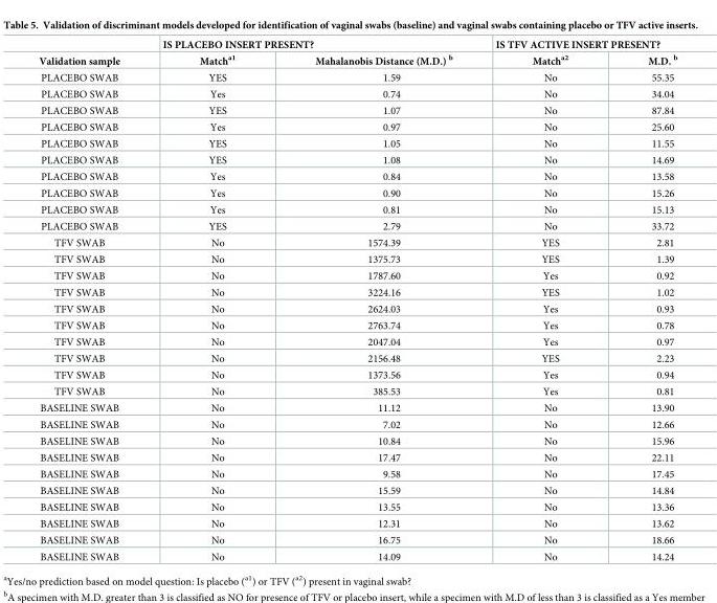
<table><thead><tr><td rowspan="2">Validation sample</td><td colspan="2">IS PLACEBO INSERT PRESENT?</td><td colspan="2">IS TFV ACTIVE INSERT PRESENT?</td></tr><tr><td>Match<sup>a1</sup></td><td>Mahalanobis Distance (M.D.) <sup>b</sup></td><td>Match<sup>a2</sup></td><td>M.D. <sup>b</sup></td></tr></thead><tbody><tr><td>PLACEBO SWAB</td><td>YES</td><td>1.59</td><td>No</td><td>55.35</td></tr><tr><td>PLACEBO SWAB</td><td>Yes</td><td>0.74</td><td>No</td><td>34.04</td></tr><tr><td>PLACEBO SWAB</td><td>YES</td><td>1.07</td><td>No</td><td>87.84</td></tr><tr><td>PLACEBO SWAB</td><td>Yes</td><td>0.97</td><td>No</td><td>25.60</td></tr><tr><td>PLACEBO SWAB</td><td>YES</td><td>1.05</td><td>No</td><td>11.55</td></tr><tr><td>PLACEBO SWAB</td><td>YES</td><td>1.08</td><td>No</td><td>14.69</td></tr><tr><td>PLACEBO SWAB</td><td>Yes</td><td>0.84</td><td>No</td><td>13.58</td></tr><tr><td>PLACEBO SWAB</td><td>Yes</td><td>0.90</td><td>No</td><td>15.26</td></tr><tr><td>PLACEBO SWAB</td><td>Yes</td><td>0.81</td><td>No</td><td>15.13</td></tr><tr><td>PLACEBO SWAB</td><td>YES</td><td>2.79</td><td>No</td><td>33.72</td></tr><tr><td>TFV SWAB</td><td>No</td><td>1574.39</td><td>YES</td><td>2.81</td></tr><tr><td>TFV SWAB</td><td>No</td><td>1375.73</td><td>YES</td><td>1.39</td></tr><tr><td>TFV SWAB</td><td>No</td><td>1787.60</td><td>Yes</td><td>0.92</td></tr><tr><td>TFV SWAB</td><td>No</td><td>3224.16</td><td>YES</td><td>1.02</td></tr><tr><td>TFV SWAB</td><td>No</td><td>2624.03</td><td>Yes</td><td>0.93</td></tr><tr><td>TFV SWAB</td><td>No</td><td>2763.74</td><td>Yes</td><td>0.78</td></tr><tr><td>TFV SWAB</td><td>No</td><td>2047.04</td><td>Yes</td><td>0.97</td></tr><tr><td>TFV SWAB</td><td>No</td><td>2156.48</td><td>YES</td><td>2.23</td></tr><tr><td>TFV SWAB</td><td>No</td><td>1373.56</td><td>Yes</td><td>0.94</td></tr><tr><td>TFV SWAB</td><td>No</td><td>385.53</td><td>Yes</td><td>0.81</td></tr><tr><td>BASELINE SWAB</td><td>No</td><td>11.12</td><td>No</td><td>13.90</td></tr><tr><td>BASELINE SWAB</td><td>No</td><td>7.02</td><td>No</td><td>12.66</td></tr><tr><td>BASELINE SWAB</td><td>No</td><td>10.84</td><td>No</td><td>15.96</td></tr><tr><td>BASELINE SWAB</td><td>No</td><td>17.47</td><td>No</td><td>22.11</td></tr><tr><td>BASELINE SWAB</td><td>No</td><td>9.58</td><td>No</td><td>17.45</td></tr><tr><td>BASELINE SWAB</td><td>No</td><td>15.59</td><td>No</td><td>14.84</td></tr><tr><td>BASELINE SWAB</td><td>No</td><td>13.55</td><td>No</td><td>13.36</td></tr><tr><td>BASELINE SWAB</td><td>No</td><td>12.31</td><td>No</td><td>13.62</td></tr><tr><td>BASELINE SWAB</td><td>No</td><td>16.75</td><td>No</td><td>18.66</td></tr><tr><td>BASELINE SWAB</td><td>No</td><td>14.09</td><td>No</td><td>14.24</td></tr></tbody></table>